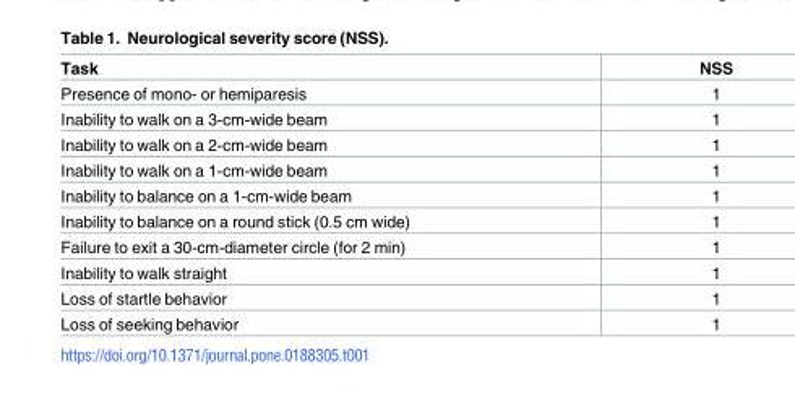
<table><thead><tr><td>Task</td><td>NSS</td></tr></thead><tbody><tr><td>Presence of mono- or hemiparesis</td><td>1</td></tr><tr><td>Inability to walk on a 3-cm-wide beam</td><td>1</td></tr><tr><td>Inability to walk on a 2-cm-wide beam</td><td>1</td></tr><tr><td>Inability to walk on a 1-cm-wide beam</td><td>1</td></tr><tr><td>Inability to balance on a 1-cm-wide beam</td><td>1</td></tr><tr><td>Inability to balance on a round stick (0.5 cm wide)</td><td>1</td></tr><tr><td>Failure to exit a 30-cm-diameter circle (for 2 min)</td><td>1</td></tr><tr><td>Inability to walk straight</td><td>1</td></tr><tr><td>Loss of startle behavior</td><td>1</td></tr><tr><td>Loss of seeking behavior</td><td>1</td></tr></tbody></table>